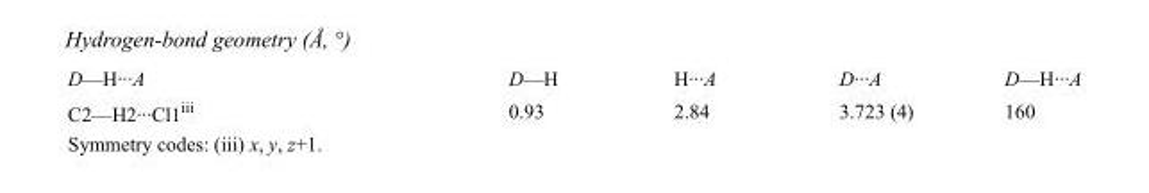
<table><tbody><tr><td>D—H···A</td><td>D—H</td><td>H···A</td><td>D···A</td><td>D—H···A</td></tr><tr><td>C2—H2···Cl1<sup>iii</sup></td><td>0.93</td><td>2.84</td><td>3.723 (4)</td><td>160</td></tr></tbody></table>